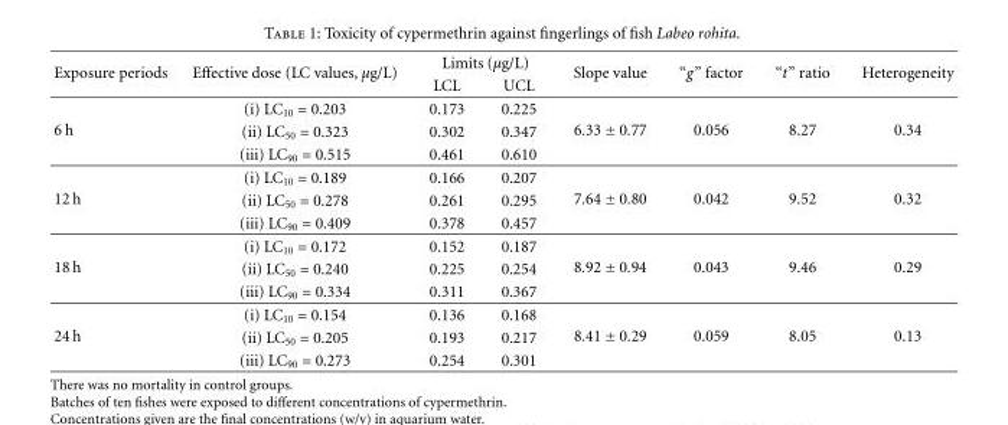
<table><thead><tr><td rowspan="2">Exposure periods</td><td rowspan="2">Effective dose (LC values, μg/L)</td><td colspan="2">Limits (μg/L)</td><td rowspan="2">Slope value</td><td rowspan="2">“g” factor</td><td rowspan="2">“t” ratio</td><td rowspan="2">Heterogeneity</td></tr><tr><td>LCL</td><td>UCL</td></tr></thead><tbody><tr><td rowspan="3">6 h</td><td>(i) LC<sub>10</sub> = 0.203</td><td>0.173</td><td>0.225</td><td rowspan="3">6.33 ± 0.77</td><td rowspan="3">0.056</td><td rowspan="3">8.27</td><td rowspan="3">0.34</td></tr><tr><td>(ii) LC<sub>50</sub> = 0.323</td><td>0.302</td><td>0.347</td></tr><tr><td>(iii) LC<sub>90</sub> = 0.515</td><td>0.461</td><td>0.610</td></tr><tr><td rowspan="3">12 h</td><td>(i) LC<sub>10</sub> = 0.189</td><td>0.166</td><td>0.207</td><td rowspan="3">7.64 ± 0.80</td><td rowspan="3">0.042</td><td rowspan="3">9.52</td><td rowspan="3">0.32</td></tr><tr><td>(ii) LC<sub>50</sub> = 0.278</td><td>0.261</td><td>0.295</td></tr><tr><td>(iii) LC<sub>90</sub> = 0.409</td><td>0.378</td><td>0.457</td></tr><tr><td rowspan="3">18 h</td><td>(i) LC<sub>10</sub> = 0.172</td><td>0.152</td><td>0.187</td><td rowspan="3">8.92 ± 0.94</td><td rowspan="3">0.043</td><td rowspan="3">9.46</td><td rowspan="3">0.29</td></tr><tr><td>(ii) LC<sub>50</sub> = 0.240</td><td>0.225</td><td>0.254</td></tr><tr><td>(iii) LC<sub>90</sub> = 0.334</td><td>0.311</td><td>0.367</td></tr><tr><td rowspan="3">24 h</td><td>(i) LC<sub>10</sub> = 0.154</td><td>0.136</td><td>0.168</td><td rowspan="3">8.41 ± 0.29</td><td rowspan="3">0.059</td><td rowspan="3">8.05</td><td rowspan="3">0.13</td></tr><tr><td>(ii) LC<sub>50</sub> = 0.205</td><td>0.193</td><td>0.217</td></tr><tr><td>(iii) LC<sub>90</sub> = 0.273</td><td>0.254</td><td>0.301</td></tr></tbody></table>